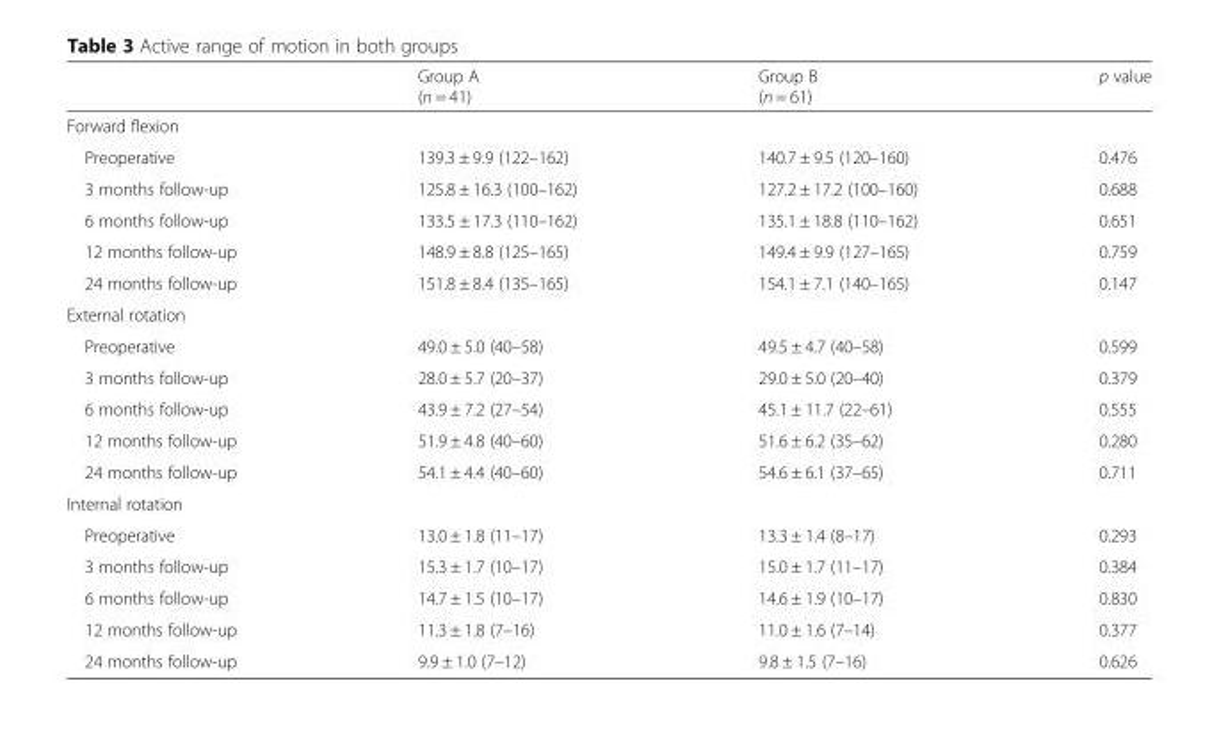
<table><thead><tr><td></td><td>Group A (n = 41)</td><td>Group B (n = 61)</td><td>p value</td></tr></thead><tbody><tr><td colspan="4">Forward flexion</td></tr><tr><td>Preoperative</td><td>139.3 ± 9.9 (122–162)</td><td>140.7 ± 9.5 (120–160)</td><td>0.476</td></tr><tr><td>3 months follow-up</td><td>125.8 ± 16.3 (100–162)</td><td>127.2 ± 17.2 (100–160)</td><td>0.688</td></tr><tr><td>6 months follow-up</td><td>133.5 ± 17.3 (110–162)</td><td>135.1 ± 18.8 (110–162)</td><td>0.651</td></tr><tr><td>12 months follow-up</td><td>148.9 ± 8.8 (125–165)</td><td>149.4 ± 9.9 (127–165)</td><td>0.759</td></tr><tr><td>24 months follow-up</td><td>151.8 ± 8.4 (135–165)</td><td>154.1 ± 7.1 (140–165)</td><td>0.147</td></tr><tr><td colspan="4">External rotation</td></tr><tr><td>Preoperative</td><td>49.0 ± 5.0 (40–58)</td><td>49.5 ± 4.7 (40–58)</td><td>0.599</td></tr><tr><td>3 months follow-up</td><td>28.0 ± 5.7 (20–37)</td><td>29.0 ± 5.0 (20–40)</td><td>0.379</td></tr><tr><td>6 months follow-up</td><td>43.9 ± 7.2 (27–54)</td><td>45.1 ± 11.7 (22–61)</td><td>0.555</td></tr><tr><td>12 months follow-up</td><td>51.9 ± 4.8 (40–60)</td><td>51.6 ± 6.2 (35–62)</td><td>0.280</td></tr><tr><td>24 months follow-up</td><td>54.1 ± 4.4 (40–60)</td><td>54.6 ± 6.1 (37–65)</td><td>0.711</td></tr><tr><td colspan="4">Internal rotation</td></tr><tr><td>Preoperative</td><td>13.0 ± 1.8 (11–17)</td><td>13.3 ± 1.4 (8–17)</td><td>0.293</td></tr><tr><td>3 months follow-up</td><td>15.3 ± 1.7 (10–17)</td><td>15.0 ± 1.7 (11–17)</td><td>0.384</td></tr><tr><td>6 months follow-up</td><td>14.7 ± 1.5 (10–17)</td><td>14.6 ± 1.9 (10–17)</td><td>0.830</td></tr><tr><td>12 months follow-up</td><td>11.3 ± 1.8 (7–16)</td><td>11.0 ± 1.6 (7–14)</td><td>0.377</td></tr><tr><td>24 months follow-up</td><td>9.9 ± 1.0 (7–12)</td><td>9.8 ± 1.5 (7–16)</td><td>0.626</td></tr></tbody></table>